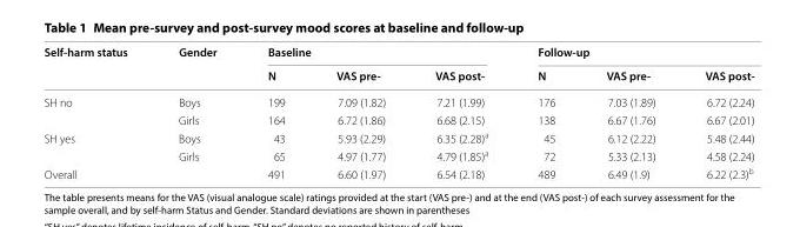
<table><thead><tr><td rowspan="2">Self‑harm status</td><td rowspan="2">Gender</td><td colspan="3">Baseline</td><td colspan="3">Follow‑up</td></tr><tr><td>N</td><td>VAS pre‑</td><td>VAS post‑</td><td>N</td><td>VAS pre‑</td><td>VAS post‑</td></tr></thead><tbody><tr><td rowspan="2">SH no</td><td>Boys</td><td>199</td><td>7.09 (1.82)</td><td>7.21 (1.99)</td><td>176</td><td>7.03 (1.89)</td><td>6.72 (2.24)</td></tr><tr><td>Girls</td><td>164</td><td>6.72 (1.86)</td><td>6.68 (2.15)</td><td>138</td><td>6.67 (1.76)</td><td>6.67 (2.01)</td></tr><tr><td rowspan="2">SH yes</td><td>Boys</td><td>43</td><td>5.93 (2.29)</td><td>6.35 (2.28)<sup>a</sup></td><td>45</td><td>6.12 (2.22)</td><td>5.48 (2.44)</td></tr><tr><td>Girls</td><td>65</td><td>4.97 (1.77)</td><td>4.79 (1.85)<sup>a</sup></td><td>72</td><td>5.33 (2.13)</td><td>4.58 (2.24)</td></tr><tr><td colspan="2">Overall</td><td>491</td><td>6.60 (1.97)</td><td>6.54 (2.18)</td><td>489</td><td>6.49 (1.9)</td><td>6.22 (2.3)<sup>b</sup></td></tr></tbody></table>